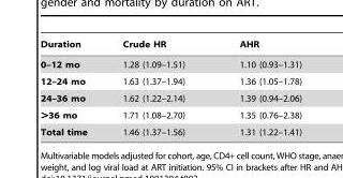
<table><thead><tr><td>Duration</td><td>Crude HR</td><td>AHR</td></tr></thead><tbody><tr><td>0–12 mo</td><td>1.28 (1.09–1.51)</td><td>1.10 (0.93–1.31)</td></tr><tr><td>12–24 mo</td><td>1.63 (1.37–1.94)</td><td>1.36 (1.05–1.78)</td></tr><tr><td>24–36 mo</td><td>1.62 (1.22–2.14)</td><td>1.39 (0.94–2.06)</td></tr><tr><td>&gt;36 mo</td><td>1.71 (1.08–2.70)</td><td>1.35 (0.76–2.38)</td></tr><tr><td>Total time</td><td>1.46 (1.37–1.56)</td><td>1.31 (1.22–1.41)</td></tr></tbody></table>